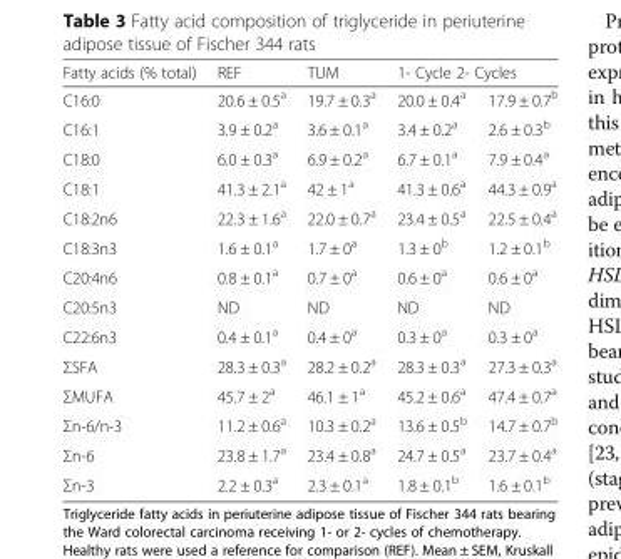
<table><thead><tr><td rowspan="2">Fatty acids (% total) C16:0</td><td rowspan="2">REF 20.6 ± 0.5<sup>a</sup></td><td rowspan="2">TUM 19.7 ± 0.3<sup>a</sup></td><td colspan="2">1- Cycle 2- Cycles</td></tr><tr><td>20.0 ± 0.4<sup>a</sup></td><td>17.9 ± 0.7<sup>b</sup></td></tr></thead><tbody><tr><td>C16:1</td><td>3.9 ± 0.2<sup>a</sup></td><td>3.6 ± 0.1<sup>a</sup></td><td>3.4 ± 0.2<sup>a</sup></td><td>2.6 ± 0.3<sup>b</sup></td></tr><tr><td>C18:0</td><td>6.0 ± 0.3<sup>a</sup></td><td>6.9 ± 0.2<sup>a</sup></td><td>6.7 ± 0.1<sup>a</sup></td><td>7.9 ± 0.4<sup>a</sup></td></tr><tr><td>C18:1</td><td>41.3 ± 2.1<sup>a</sup></td><td>42 ± 1<sup>a</sup></td><td>41.3 ± 0.6<sup>a</sup></td><td>44.3 ± 0.9<sup>a</sup></td></tr><tr><td>C18:2n6</td><td>22.3 ± 1.6<sup>a</sup></td><td>22.0 ± 0.7<sup>a</sup></td><td>23.4 ± 0.5<sup>a</sup></td><td>22.5 ± 0.4<sup>a</sup></td></tr><tr><td>C18:3n3</td><td>1.6 ± 0.1<sup>a</sup></td><td>1.7 ± 0<sup>a</sup></td><td>1.3 ± 0<sup>b</sup></td><td>1.2 ± 0.1<sup>b</sup></td></tr><tr><td>C20:4n6</td><td>0.8 ± 0.1<sup>a</sup></td><td>0.7 ± 0<sup>a</sup></td><td>0.6 ± 0<sup>a</sup></td><td>0.6 ± 0<sup>a</sup></td></tr><tr><td>C20:5n3</td><td>ND</td><td>ND</td><td>ND</td><td>ND</td></tr><tr><td>C22:6n3</td><td>0.4 ± 0.1<sup>a</sup></td><td>0.4 ± 0<sup>a</sup></td><td>0.3 ± 0<sup>a</sup></td><td>0.3 ± 0<sup>a</sup></td></tr><tr><td>ΣSFA</td><td>28.3 ± 0.3<sup>a</sup></td><td>28.2 ± 0.2<sup>a</sup></td><td>28.3 ± 0.3<sup>a</sup></td><td>27.3 ± 0.3<sup>a</sup></td></tr><tr><td>ΣMUFA</td><td>45.7 ± 2<sup>a</sup></td><td>46.1 ± 1<sup>a</sup></td><td>45.2 ± 0.6<sup>a</sup></td><td>47.4 ± 0.7<sup>a</sup></td></tr><tr><td>Σn-6/n-3</td><td>11.2 ± 0.6<sup>a</sup></td><td>10.3 ± 0.2<sup>a</sup></td><td>13.6 ± 0.5<sup>b</sup></td><td>14.7 ± 0.7<sup>b</sup></td></tr><tr><td>Σn-6</td><td>23.8 ± 1.7<sup>a</sup></td><td>23.4 ± 0.8<sup>a</sup></td><td>24.7 ± 0.5<sup>a</sup></td><td>23.7 ± 0.4<sup>a</sup></td></tr><tr><td>Σn-3</td><td>2.2 ± 0.3<sup>a</sup></td><td>2.3 ± 0.1<sup>a</sup></td><td>1.8 ± 0.1<sup>b</sup></td><td>1.6 ± 0.1<sup>b</sup></td></tr></tbody></table>